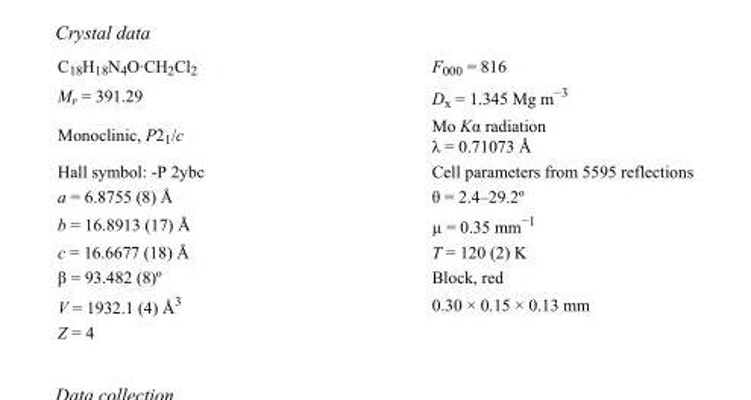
<table><tbody><tr><td>C<sub>18</sub>H<sub>18</sub>N<sub>4</sub>O·CH<sub>2</sub>Cl<sub>2</sub></td><td>F<sub>000</sub> = 816</td></tr><tr><td>M<sub>r</sub> = 391.29</td><td>D<sub>x</sub> = 1.345 Mg m<sup>−3</sup></td></tr><tr><td>Monoclinic, P2<sub>1</sub>/c</td><td>Mo Kα radiation λ = 0.71073 Å</td></tr><tr><td>Hall symbol: -P 2ybc</td><td>Cell parameters from 5595 reflections</td></tr><tr><td>a = 6.8755 (8) Å</td><td>θ = 2.4–29.2º</td></tr><tr><td>b = 16.8913 (17) Å</td><td>µ = 0.35 mm<sup>−1</sup></td></tr><tr><td>c = 16.6677 (18) Å</td><td>T = 120 (2) K</td></tr><tr><td>β = 93.482 (8)º</td><td>Block, red</td></tr><tr><td>V = 1932.1 (4) Å<sup>3</sup></td><td>0.30 × 0.15 × 0.13 mm</td></tr><tr><td>Z = 4</td><td></td></tr></tbody></table>